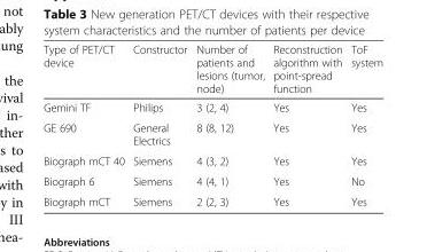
<table><thead><tr><td>Type of PET/CT device</td><td>Constructor</td><td>Number of patients and lesions (tumor, node)</td><td>Reconstruction algorithm with point-spread function</td><td>ToF system</td></tr></thead><tbody><tr><td>Gemini TF</td><td>Philips</td><td>3 (2, 4)</td><td>Yes</td><td>Yes</td></tr><tr><td>GE 690</td><td>General Electrics</td><td>8 (8, 12)</td><td>Yes</td><td>Yes</td></tr><tr><td>Biograph mCT 40</td><td>Siemens</td><td>4 (3, 2)</td><td>Yes</td><td>Yes</td></tr><tr><td>Biograph 6</td><td>Siemens</td><td>4 (4, 1)</td><td>Yes</td><td>No</td></tr><tr><td>Biograph mCT</td><td>Siemens</td><td>2 (2, 3)</td><td>Yes</td><td>Yes</td></tr></tbody></table>